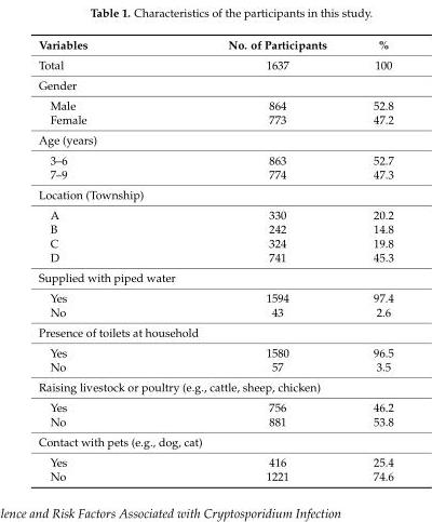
<table><thead><tr><td>Variables</td><td>No. of Participants</td><td>%</td></tr></thead><tbody><tr><td>Total</td><td>1637</td><td>100</td></tr><tr><td colspan="3">Gender</td></tr><tr><td>Male</td><td>864</td><td>52.8</td></tr><tr><td>Female</td><td>773</td><td>47.2</td></tr><tr><td colspan="3">Age (years)</td></tr><tr><td>3–6</td><td>863</td><td>52.7</td></tr><tr><td>7–9</td><td>774</td><td>47.3</td></tr><tr><td colspan="3">Location (Township)</td></tr><tr><td>A</td><td>330</td><td>20.2</td></tr><tr><td>B</td><td>242</td><td>14.8</td></tr><tr><td>C</td><td>324</td><td>19.8</td></tr><tr><td>D</td><td>741</td><td>45.3</td></tr><tr><td colspan="3">Supplied with piped water</td></tr><tr><td>Yes</td><td>1594</td><td>97.4</td></tr><tr><td>No</td><td>43</td><td>2.6</td></tr><tr><td colspan="3">Presence of toilets at household</td></tr><tr><td>Yes</td><td>1580</td><td>96.5</td></tr><tr><td>No</td><td>57</td><td>3.5</td></tr><tr><td colspan="3">Raising livestock or poultry (e.g., cattle, sheep, chicken)</td></tr><tr><td>Yes</td><td>756</td><td>46.2</td></tr><tr><td>No</td><td>881</td><td>53.8</td></tr><tr><td colspan="3">Contact with pets (e.g., dog, cat)</td></tr><tr><td>Yes</td><td>416</td><td>25.4</td></tr><tr><td>No</td><td>1221</td><td>74.6</td></tr></tbody></table>